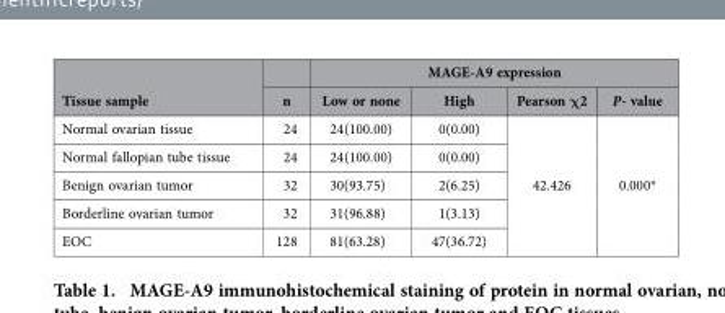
<table><thead><tr><td rowspan="2">Tissue sample</td><td rowspan="2">n</td><td colspan="4">MAGE-A9 expression</td></tr><tr><td>Low or none</td><td>High</td><td>Pearson χ2</td><td>P- value</td></tr></thead><tbody><tr><td>Normal ovarian tissue</td><td>24</td><td>24(100.00)</td><td>0(0.00)</td><td rowspan="5">42.426</td><td rowspan="5">0.000*</td></tr><tr><td>Normal fallopian tube tissue</td><td>24</td><td>24(100.00)</td><td>0(0.00)</td></tr><tr><td>Benign ovarian tumor</td><td>32</td><td>30(93.75)</td><td>2(6.25)</td></tr><tr><td>Borderline ovarian tumor</td><td>32</td><td>31(96.88)</td><td>1(3.13)</td></tr><tr><td>EOC</td><td>128</td><td>81(63.28)</td><td>47(36.72)</td></tr></tbody></table>